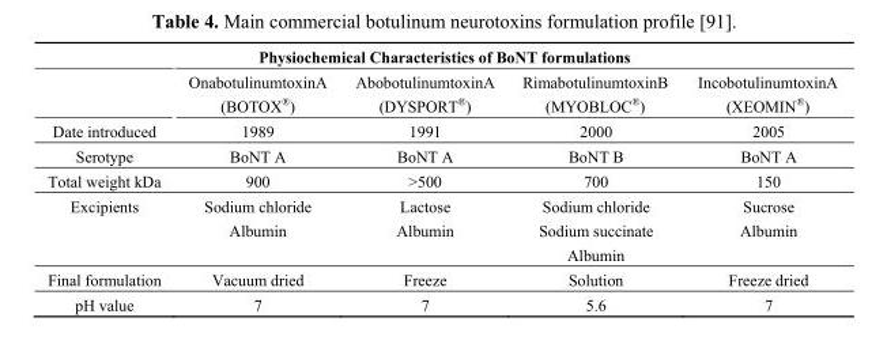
<table><thead><tr><td colspan="5">Physiochemical Characteristics of BoNT formulations</td></tr><tr><td></td><td>OnabotulinumtoxinA (BOTOX<sup>®</sup>)</td><td>AbobotulinumtoxinA (DYSPORT<sup>®</sup>)</td><td>RimabotulinumtoxinB (MYOBLOC<sup>®</sup>)</td><td>IncobotulinumtoxinA (XEOMIN<sup>®</sup>)</td></tr></thead><tbody><tr><td>Date introduced</td><td>1989</td><td>1991</td><td>2000</td><td>2005</td></tr><tr><td>Serotype</td><td>BoNT A</td><td>BoNT A</td><td>BoNT B</td><td>BoNT A</td></tr><tr><td>Total weight kDa</td><td>900</td><td>&gt;500</td><td>700</td><td>150</td></tr><tr><td rowspan="3">Excipients</td><td>Sodium chloride</td><td>Lactose</td><td>Sodium chloride</td><td>Sucrose</td></tr><tr><td>Albumin</td><td>Albumin</td><td>Sodium succinate</td><td>Albumin</td></tr><tr><td></td><td></td><td>Albumin</td><td></td></tr><tr><td>Final formulation</td><td>Vacuum dried</td><td>Freeze</td><td>Solution</td><td>Freeze dried</td></tr><tr><td>pH value</td><td>7</td><td>7</td><td>5.6</td><td>7</td></tr></tbody></table>